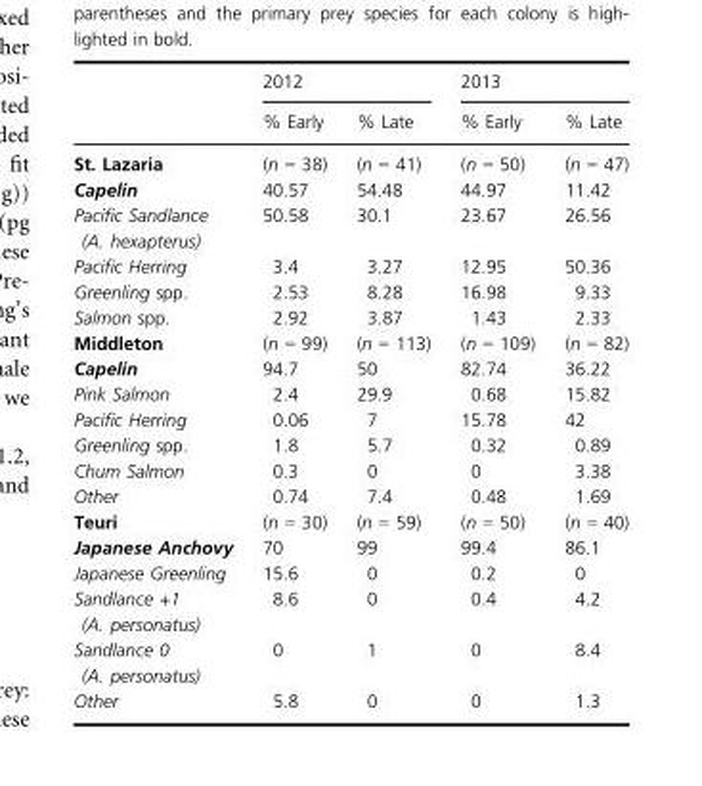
<table><thead><tr><td rowspan="2"></td><td colspan="2">2012</td><td colspan="2">2013</td></tr><tr><td>% Early</td><td>% Late</td><td>% Early</td><td>% Late</td></tr></thead><tbody><tr><td>St. Lazaria</td><td>(n = 38)</td><td>(n = 41)</td><td>(n = 50)</td><td>(n = 47)</td></tr><tr><td>Capelin</td><td>40.57</td><td>54.48</td><td>44.97</td><td>11.42</td></tr><tr><td>Pacific Sandlance (A. hexapterus)</td><td>50.58</td><td>30.1</td><td>23.67</td><td>26.56</td></tr><tr><td>Pacific Herring</td><td>3.4</td><td>3.27</td><td>12.95</td><td>50.36</td></tr><tr><td>Greenling spp.</td><td>2.53</td><td>8.28</td><td>16.98</td><td>9.33</td></tr><tr><td>Salmon spp.</td><td>2.92</td><td>3.87</td><td>1.43</td><td>2.33</td></tr><tr><td>Middleton</td><td>(n = 99)</td><td>(n = 113)</td><td>(n = 109)</td><td>(n = 82)</td></tr><tr><td>Capelin</td><td>94.7</td><td>50</td><td>82.74</td><td>36.22</td></tr><tr><td>Pink Salmon</td><td>2.4</td><td>29.9</td><td>0.68</td><td>15.82</td></tr><tr><td>Pacific Herring</td><td>0.06</td><td>7</td><td>15.78</td><td>42</td></tr><tr><td>Greenling spp.</td><td>1.8</td><td>5.7</td><td>0.32</td><td>0.89</td></tr><tr><td>Chum Salmon</td><td>0.3</td><td>0</td><td>0</td><td>3.38</td></tr><tr><td>Other</td><td>0.74</td><td>7.4</td><td>0.48</td><td>1.69</td></tr><tr><td>Teuri</td><td>(n = 30)</td><td>(n = 59)</td><td>(n = 50)</td><td>(n = 40)</td></tr><tr><td>Japanese Anchovy</td><td>70</td><td>99</td><td>99.4</td><td>86.1</td></tr><tr><td>Japanese Greenling</td><td>15.6</td><td>0</td><td>0.2</td><td>0</td></tr><tr><td>Sandlance +1 (A. personatus)</td><td>8.6</td><td>0</td><td>0.4</td><td>4.2</td></tr><tr><td>Sandlance 0 (A. personatus)</td><td>0</td><td>1</td><td>0</td><td>8.4</td></tr><tr><td>Other</td><td>5.8</td><td>0</td><td>0</td><td>1.3</td></tr></tbody></table>